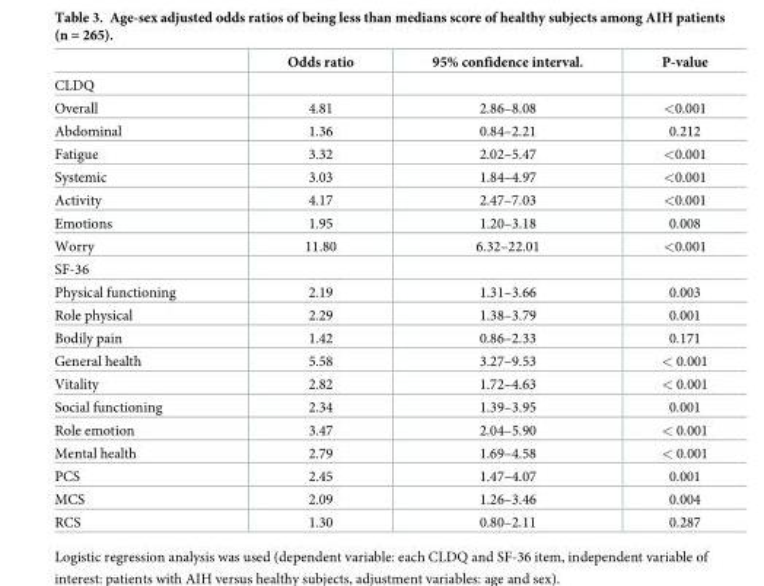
<table><thead><tr><td></td><td>Odds ratio</td><td>95% confidence interval.</td><td>P-value</td></tr></thead><tbody><tr><td colspan="4">CLDQ</td></tr><tr><td>Overall</td><td>4.81</td><td>2.86–8.08</td><td>&lt;0.001</td></tr><tr><td>Abdominal</td><td>1.36</td><td>0.84–2.21</td><td>0.212</td></tr><tr><td>Fatigue</td><td>3.32</td><td>2.02–5.47</td><td>&lt;0.001</td></tr><tr><td>Systemic</td><td>3.03</td><td>1.84–4.97</td><td>&lt;0.001</td></tr><tr><td>Activity</td><td>4.17</td><td>2.47–7.03</td><td>&lt;0.001</td></tr><tr><td>Emotions</td><td>1.95</td><td>1.20–3.18</td><td>0.008</td></tr><tr><td>Worry</td><td>11.80</td><td>6.32–22.01</td><td>&lt;0.001</td></tr><tr><td colspan="4">SF-36</td></tr><tr><td>Physical functioning</td><td>2.19</td><td>1.31–3.66</td><td>0.003</td></tr><tr><td>Role physical</td><td>2.29</td><td>1.38–3.79</td><td>0.001</td></tr><tr><td>Bodily pain</td><td>1.42</td><td>0.86–2.33</td><td>0.171</td></tr><tr><td>General health</td><td>5.58</td><td>3.27–9.53</td><td>&lt; 0.001</td></tr><tr><td>Vitality</td><td>2.82</td><td>1.72–4.63</td><td>&lt; 0.001</td></tr><tr><td>Social functioning</td><td>2.34</td><td>1.39–3.95</td><td>0.001</td></tr><tr><td>Role emotion</td><td>3.47</td><td>2.04–5.90</td><td>&lt; 0.001</td></tr><tr><td>Mental health</td><td>2.79</td><td>1.69–4.58</td><td>&lt; 0.001</td></tr><tr><td>PCS</td><td>2.45</td><td>1.47–4.07</td><td>0.001</td></tr><tr><td>MCS</td><td>2.09</td><td>1.26–3.46</td><td>0.004</td></tr><tr><td>RCS</td><td>1.30</td><td>0.80–2.11</td><td>0.287</td></tr></tbody></table>